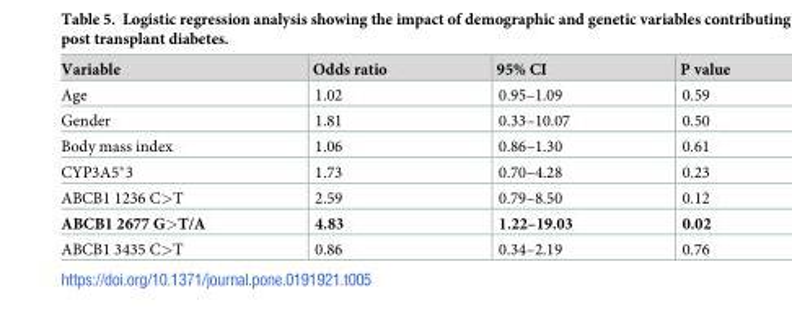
<table><thead><tr><td>Variable</td><td>Odds ratio</td><td>95% CI</td><td>P value</td></tr></thead><tbody><tr><td>Age</td><td>1.02</td><td>0.95–1.09</td><td>0.59</td></tr><tr><td>Gender</td><td>1.81</td><td>0.33–10.07</td><td>0.50</td></tr><tr><td>Body mass index</td><td>1.06</td><td>0.86–1.30</td><td>0.61</td></tr><tr><td>CYP3A5*3</td><td>1.73</td><td>0.70–4.28</td><td>0.23</td></tr><tr><td>ABCB1 1236 C&gt;T</td><td>2.59</td><td>0.79–8.50</td><td>0.12</td></tr><tr><td>ABCB1 2677 G&gt;T/A</td><td>4.83</td><td>1.22–19.03</td><td>0.02</td></tr><tr><td>ABCB1 3435 C&gt;T</td><td>0.86</td><td>0.34–2.19</td><td>0.76</td></tr></tbody></table>